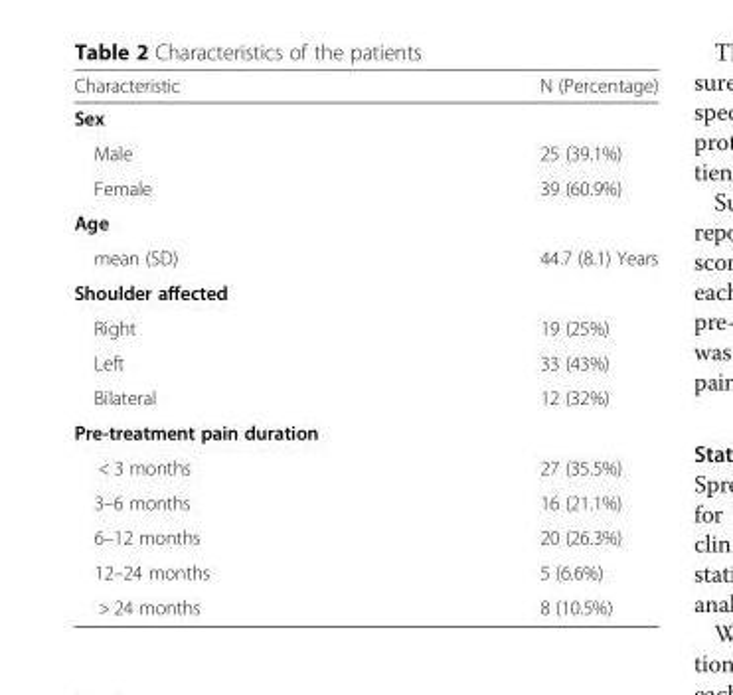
<table><thead><tr><td>Characteristic</td><td>N (Percentage)</td></tr></thead><tbody><tr><td colspan="2">Sex</td></tr><tr><td>Male</td><td>25 (39.1%)</td></tr><tr><td>Female</td><td>39 (60.9%)</td></tr><tr><td colspan="2">Age</td></tr><tr><td>mean (SD)</td><td>44.7 (8.1) Years</td></tr><tr><td colspan="2">Shoulder affected</td></tr><tr><td>Right</td><td>19 (25%)</td></tr><tr><td>Left</td><td>33 (43%)</td></tr><tr><td>Bilateral</td><td>12 (32%)</td></tr><tr><td colspan="2">Pre-treatment pain duration</td></tr><tr><td>&lt; 3 months</td><td>27 (35.5%)</td></tr><tr><td>3–6 months</td><td>16 (21.1%)</td></tr><tr><td>6–12 months</td><td>20 (26.3%)</td></tr><tr><td>12–24 months</td><td>5 (6.6%)</td></tr><tr><td>&gt; 24 months</td><td>8 (10.5%)</td></tr></tbody></table>